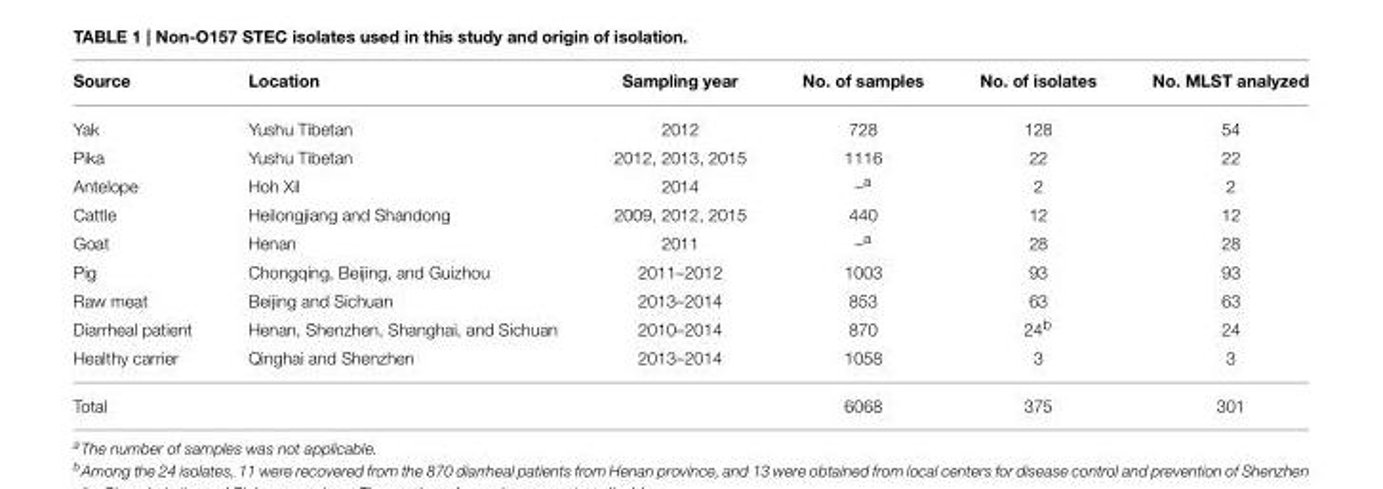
<table><thead><tr><td>Source</td><td>Location</td><td>Sampling year</td><td>No. of samples</td><td>No. of isolates</td><td>No. MLST analyzed</td></tr></thead><tbody><tr><td>Yak</td><td>Yushu Tibetan</td><td>2012</td><td>728</td><td>128</td><td>54</td></tr><tr><td>Pika</td><td>Yushu Tibetan</td><td>2012, 2013, 2015</td><td>1116</td><td>22</td><td>22</td></tr><tr><td>Antelope</td><td>Hoh Xil</td><td>2014</td><td>–<sup>a</sup></td><td>2</td><td>2</td></tr><tr><td>Cattle</td><td>Heilongjiang and Shandong</td><td>2009, 2012, 2015</td><td>440</td><td>12</td><td>12</td></tr><tr><td>Goat</td><td>Henan</td><td>2011</td><td>–<sup>a</sup></td><td>28</td><td>28</td></tr><tr><td>Pig</td><td>Chongqing, Beijing, and Guizhou</td><td>2011–2012</td><td>1003</td><td>93</td><td>93</td></tr><tr><td>Raw meat</td><td>Beijing and Sichuan</td><td>2013–2014</td><td>853</td><td>63</td><td>63</td></tr><tr><td>Diarrheal patient</td><td>Henan, Shenzhen, Shanghai, and Sichuan</td><td>2010–2014</td><td>870</td><td>24<sup>b</sup></td><td>24</td></tr><tr><td>Healthy carrier</td><td>Qinghai and Shenzhen</td><td>2013–2014</td><td>1058</td><td>3</td><td>3</td></tr><tr><td>Total</td><td></td><td></td><td>6068</td><td>375</td><td>301</td></tr></tbody></table>